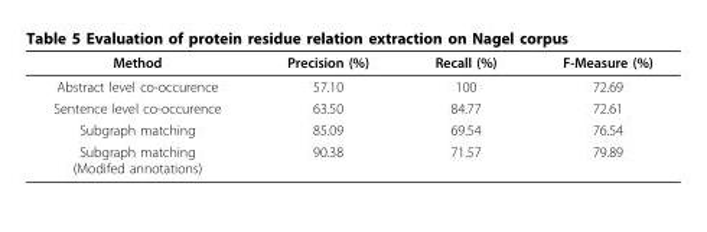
<table><thead><tr><td>Method</td><td>Precision (%)</td><td>Recall (%)</td><td>F-Measure (%)</td></tr></thead><tbody><tr><td>Abstract level co-occurence</td><td>57.10</td><td>100</td><td>72.69</td></tr><tr><td>Sentence level co-occurence</td><td>63.50</td><td>84.77</td><td>72.61</td></tr><tr><td>Subgraph matching</td><td>85.09</td><td>69.54</td><td>76.54</td></tr><tr><td>Subgraph matching (Modifed annotations)</td><td>90.38</td><td>71.57</td><td>79.89</td></tr></tbody></table>